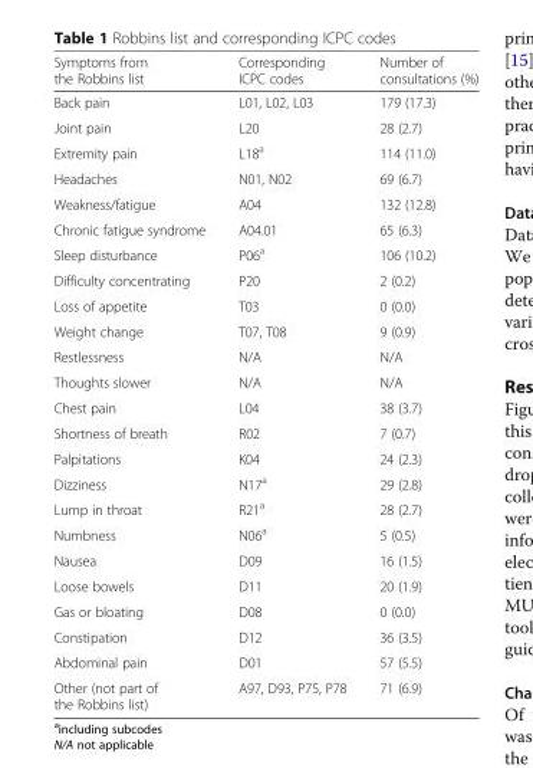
<table><thead><tr><td>Symptoms from the Robbins list</td><td>Corresponding ICPC codes</td><td>Number of consultations (%)</td></tr></thead><tbody><tr><td>Back pain</td><td>L01, L02, L03</td><td>179 (17.3)</td></tr><tr><td>Joint pain</td><td>L20</td><td>28 (2.7)</td></tr><tr><td>Extremity pain</td><td>L18<sup>a</sup></td><td>114 (11.0)</td></tr><tr><td>Headaches</td><td>N01, N02</td><td>69 (6.7)</td></tr><tr><td>Weakness/fatigue</td><td>A04</td><td>132 (12.8)</td></tr><tr><td>Chronic fatigue syndrome</td><td>A04.01</td><td>65 (6.3)</td></tr><tr><td>Sleep disturbance</td><td>P06<sup>a</sup></td><td>106 (10.2)</td></tr><tr><td>Difficulty concentrating</td><td>P20</td><td>2 (0.2)</td></tr><tr><td>Loss of appetite</td><td>T03</td><td>0 (0.0)</td></tr><tr><td>Weight change</td><td>T07, T08</td><td>9 (0.9)</td></tr><tr><td>Restlessness</td><td>N/A</td><td>N/A</td></tr><tr><td>Thoughts slower</td><td>N/A</td><td>N/A</td></tr><tr><td>Chest pain</td><td>L04</td><td>38 (3.7)</td></tr><tr><td>Shortness of breath</td><td>R02</td><td>7 (0.7)</td></tr><tr><td>Palpitations</td><td>K04</td><td>24 (2.3)</td></tr><tr><td>Dizziness</td><td>N17<sup>a</sup></td><td>29 (2.8)</td></tr><tr><td>Lump in throat</td><td>R21<sup>a</sup></td><td>28 (2.7)</td></tr><tr><td>Numbness</td><td>N06<sup>a</sup></td><td>5 (0.5)</td></tr><tr><td>Nausea</td><td>D09</td><td>16 (1.5)</td></tr><tr><td>Loose bowels</td><td>D11</td><td>20 (1.9)</td></tr><tr><td>Gas or bloating</td><td>D08</td><td>0 (0.0)</td></tr><tr><td>Constipation</td><td>D12</td><td>36 (3.5)</td></tr><tr><td>Abdominal pain</td><td>D01</td><td>57 (5.5)</td></tr><tr><td>Other (not part of the Robbins list)</td><td>A97, D93, P75, P78</td><td>71 (6.9)</td></tr></tbody></table>